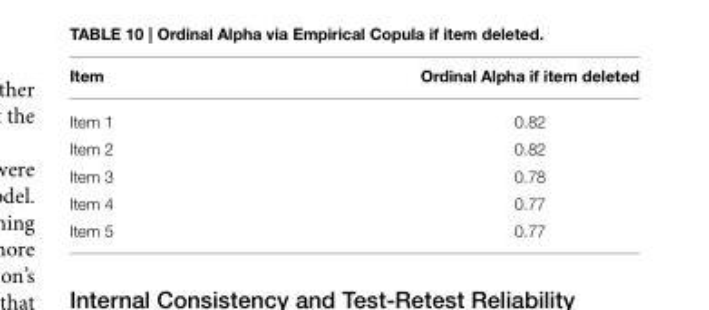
<table><thead><tr><td>Item</td><td>Ordinal Alpha if item deleted</td></tr></thead><tbody><tr><td>Item 1</td><td>0.82</td></tr><tr><td>Item 2</td><td>0.82</td></tr><tr><td>Item 3</td><td>0.78</td></tr><tr><td>Item 4</td><td>0.77</td></tr><tr><td>Item 5</td><td>0.77</td></tr></tbody></table>